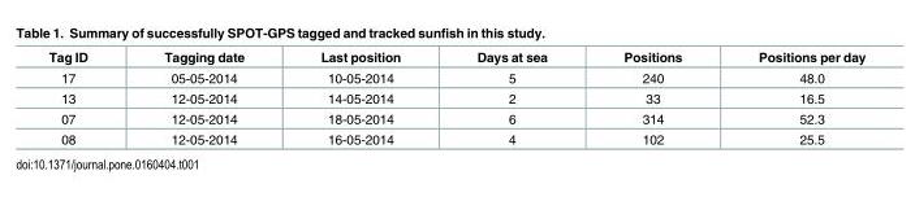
<table><thead><tr><td>Tag ID</td><td>Tagging date</td><td>Last position</td><td>Days at sea</td><td>Positions</td><td>Positions per day</td></tr></thead><tbody><tr><td>17</td><td>05-05-2014</td><td>10-05-2014</td><td>5</td><td>240</td><td>48.0</td></tr><tr><td>13</td><td>12-05-2014</td><td>14-05-2014</td><td>2</td><td>33</td><td>16.5</td></tr><tr><td>07</td><td>12-05-2014</td><td>18-05-2014</td><td>6</td><td>314</td><td>52.3</td></tr><tr><td>08</td><td>12-05-2014</td><td>16-05-2014</td><td>4</td><td>102</td><td>25.5</td></tr></tbody></table>